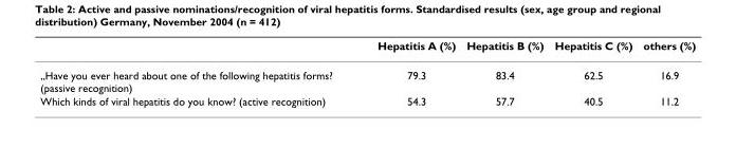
<table><thead><tr><td></td><td>Hepatitis A (%)</td><td>Hepatitis B (%)</td><td>Hepatitis C (%)</td><td>others (%)</td></tr></thead><tbody><tr><td>„Have you ever heard about one of the following hepatitis forms? (passive recognition)</td><td>79.3</td><td>83.4</td><td>62.5</td><td>16.9</td></tr><tr><td>Which kinds of viral hepatitis do you know? (active recognition)</td><td>54.3</td><td>57.7</td><td>40.5</td><td>11.2</td></tr></tbody></table>